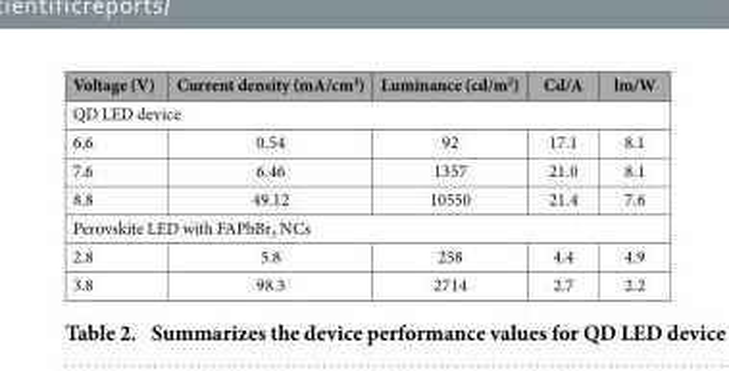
<table><thead><tr><td>Voltage (V)</td><td>Current density (mA/cm<sup>2</sup>)</td><td>Luminance (cd/m<sup>2</sup>)</td><td>Cd/A</td><td>lm/W</td></tr></thead><tbody><tr><td colspan="5">QD LED device</td></tr><tr><td>6.6</td><td>0.54</td><td>92</td><td>17.1</td><td>8.1</td></tr><tr><td>7.6</td><td>6.46</td><td>1357</td><td>21.0</td><td>8.1</td></tr><tr><td>8.8</td><td>49.12</td><td>10550</td><td>21.4</td><td>7.6</td></tr><tr><td colspan="5">Perovskite LED with FAPbBr<sub>3</sub> NCs</td></tr><tr><td>2.8</td><td>5.8</td><td>258</td><td>4.4</td><td>4.9</td></tr><tr><td>3.8</td><td>98.3</td><td>2714</td><td>2.7</td><td>2.2</td></tr></tbody></table>